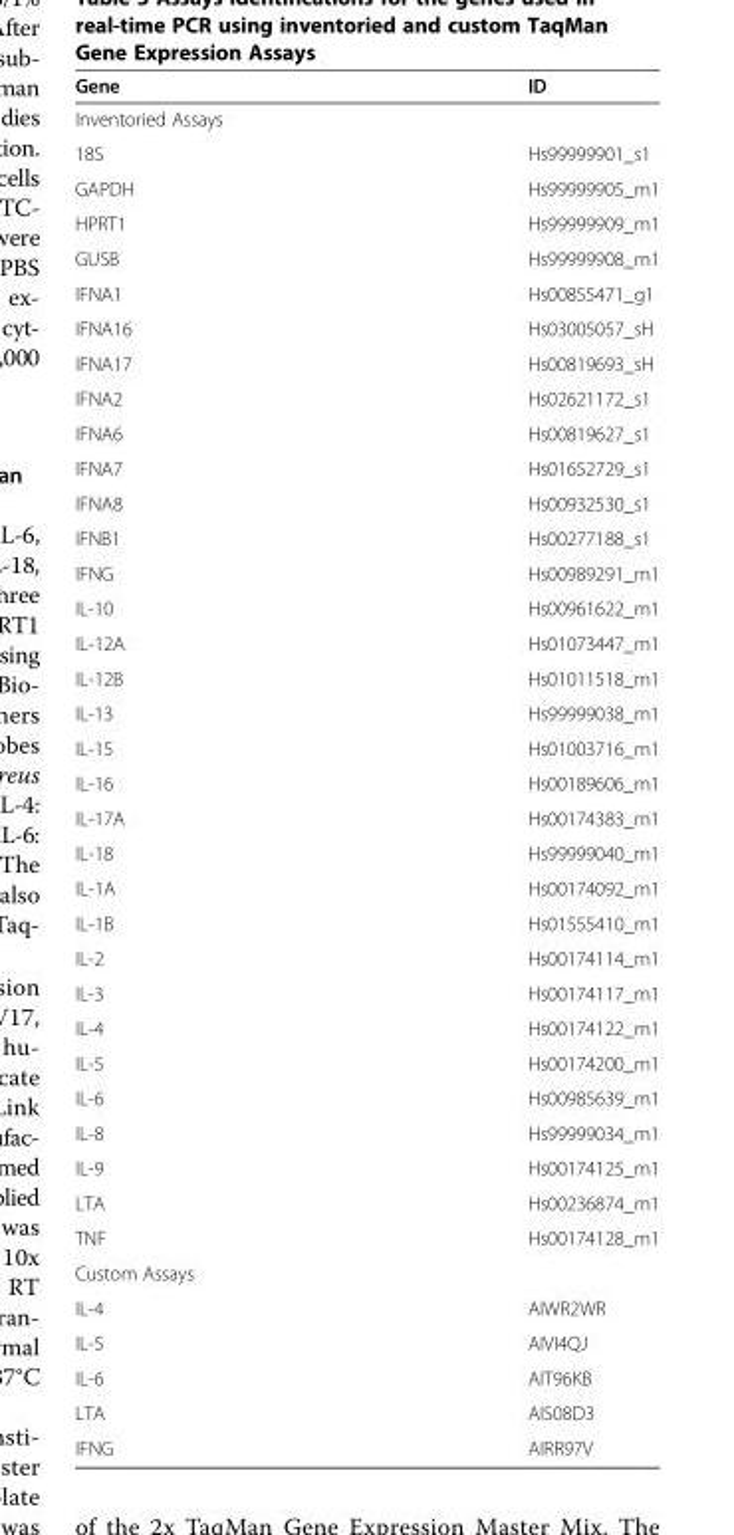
<table><thead><tr><td>Gene</td><td>ID</td></tr></thead><tbody><tr><td colspan="2">Inventoried Assays</td></tr><tr><td>18S</td><td>Hs99999901_s1</td></tr><tr><td>GAPDH</td><td>Hs99999905_m1</td></tr><tr><td>HPRT1</td><td>Hs99999909_m1</td></tr><tr><td>GUSB</td><td>Hs99999908_m1</td></tr><tr><td>IFNA1</td><td>Hs00855471_g1</td></tr><tr><td>IFNA16</td><td>Hs03005057_sH</td></tr><tr><td>IFNA17</td><td>Hs00819693_sH</td></tr><tr><td>IFNA2</td><td>Hs02621172_s1</td></tr><tr><td>IFNA6</td><td>Hs00819627_s1</td></tr><tr><td>IFNA7</td><td>Hs01652729_s1</td></tr><tr><td>IFNA8</td><td>Hs00932530_s1</td></tr><tr><td>IFNB1</td><td>Hs00277188_s1</td></tr><tr><td>IFNG</td><td>Hs00989291_m1</td></tr><tr><td>IL-10</td><td>Hs00961622_m1</td></tr><tr><td>IL-12A</td><td>Hs01073447_m1</td></tr><tr><td>IL-12B</td><td>Hs01011518_m1</td></tr><tr><td>IL-13</td><td>Hs99999038_m1</td></tr><tr><td>IL-15</td><td>Hs01003716_m1</td></tr><tr><td>IL-16</td><td>Hs00189606_m1</td></tr><tr><td>IL-17A</td><td>Hs00174383_m1</td></tr><tr><td>IL-18</td><td>Hs99999040_m1</td></tr><tr><td>IL-1A</td><td>Hs00174092_m1</td></tr><tr><td>IL-1B</td><td>Hs01555410_m1</td></tr><tr><td>IL-2</td><td>Hs00174114_m1</td></tr><tr><td>IL-3</td><td>Hs00174117_m1</td></tr><tr><td>IL-4</td><td>Hs00174122_m1</td></tr><tr><td>IL-5</td><td>Hs00174200_m1</td></tr><tr><td>IL-6</td><td>Hs00985639_m1</td></tr><tr><td>IL-8</td><td>Hs99999034_m1</td></tr><tr><td>IL-9</td><td>Hs00174125_m1</td></tr><tr><td>LTA</td><td>Hs00236874_m1</td></tr><tr><td>TNF</td><td>Hs00174128_m1</td></tr><tr><td colspan="2">Custom Assays</td></tr><tr><td>IL-4</td><td>AIWR2WR</td></tr><tr><td>IL-5</td><td>AIVI4QJ</td></tr><tr><td>IL-6</td><td>AIT96KB</td></tr><tr><td>LTA</td><td>AIS08D3</td></tr><tr><td>IFNG</td><td>AIRR97V</td></tr></tbody></table>